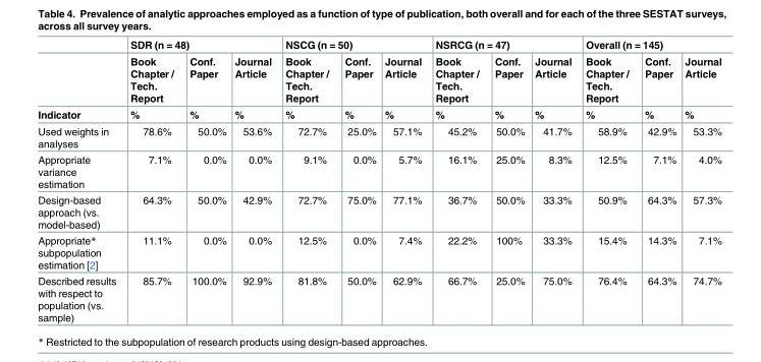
<table><thead><tr><td rowspan="3">Indicator</td><td colspan="3">SDR (n = 48)</td><td colspan="3">NSCG (n = 50)</td><td colspan="3">NSRCG (n = 47)</td><td colspan="3">Overall (n = 145)</td></tr><tr><td rowspan="2">Book Chapter / Tech. Report %</td><td rowspan="2">Conf. Paper %</td><td rowspan="2">Journal Article %</td><td rowspan="2">Book Chapter / Tech. Report %</td><td rowspan="2">Conf. Paper %</td><td rowspan="2">Journal Article %</td><td rowspan="2">Book Chapter / Tech. Report %</td><td rowspan="2">Conf. Paper %</td><td rowspan="2">Journal Article %</td><td rowspan="2">Book Chapter / Tech. Report %</td><td rowspan="2">Conf. Paper %</td><td rowspan="2">Journal Article %</td></tr><tr></tr></thead><tbody><tr><td>Used weights in analyses</td><td>78.6%</td><td>50.0%</td><td>53.6%</td><td>72.7%</td><td>25.0%</td><td>57.1%</td><td>45.2%</td><td>50.0%</td><td>41.7%</td><td>58.9%</td><td>42.9%</td><td>53.3%</td></tr><tr><td>Appropriate variance estimation</td><td>7.1%</td><td>0.0%</td><td>0.0%</td><td>9.1%</td><td>0.0%</td><td>5.7%</td><td>16.1%</td><td>25.0%</td><td>8.3%</td><td>12.5%</td><td>7.1%</td><td>4.0%</td></tr><tr><td>Design-based approach (vs. model-based)</td><td>64.3%</td><td>50.0%</td><td>42.9%</td><td>72.7%</td><td>75.0%</td><td>77.1%</td><td>36.7%</td><td>50.0%</td><td>33.3%</td><td>50.9%</td><td>64.3%</td><td>57.3%</td></tr><tr><td>Appropriate* subpopulation estimation [2]</td><td>11.1%</td><td>0.0%</td><td>0.0%</td><td>12.5%</td><td>0.0%</td><td>7.4%</td><td>22.2%</td><td>100%</td><td>33.3%</td><td>15.4%</td><td>14.3%</td><td>7.1%</td></tr><tr><td>Described results with respect to population (vs. sample)</td><td>85.7%</td><td>100.0%</td><td>92.9%</td><td>81.8%</td><td>50.0%</td><td>62.9%</td><td>66.7%</td><td>25.0%</td><td>75.0%</td><td>76.4%</td><td>64.3%</td><td>74.7%</td></tr></tbody></table>